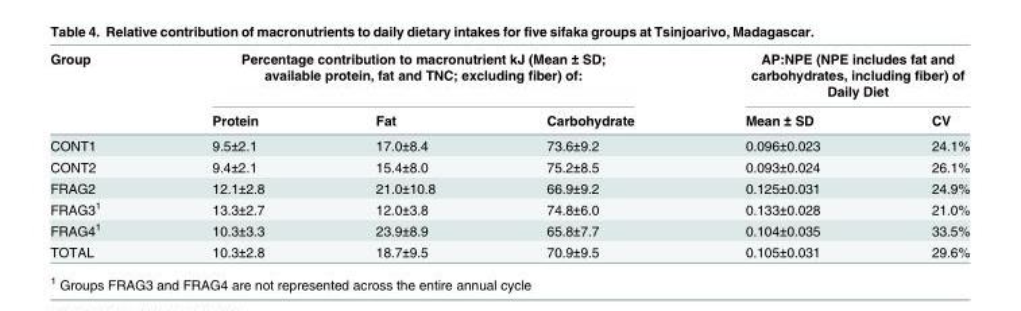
<table><thead><tr><td rowspan="2">Group</td><td colspan="3">Percentage contribution to macronutrient kJ (Mean ± SD; available protein, fat and TNC; excluding fiber) of:</td><td colspan="2">AP:NPE (NPE includes fat and carbohydrates, including fiber) of Daily Diet</td></tr><tr><td>Protein</td><td>Fat</td><td>Carbohydrate</td><td>Mean ± SD</td><td>CV</td></tr></thead><tbody><tr><td>CONT1</td><td>9.5±2.1</td><td>17.0±8.4</td><td>73.6±9.2</td><td>0.096±0.023</td><td>24.1%</td></tr><tr><td>CONT2</td><td>9.4±2.1</td><td>15.4±8.0</td><td>75.2±8.5</td><td>0.093±0.024</td><td>26.1%</td></tr><tr><td>FRAG2</td><td>12.1±2.8</td><td>21.0±10.8</td><td>66.9±9.2</td><td>0.125±0.031</td><td>24.9%</td></tr><tr><td>FRAG3<sup>1</sup></td><td>13.3±2.7</td><td>12.0±3.8</td><td>74.8±6.0</td><td>0.133±0.028</td><td>21.0%</td></tr><tr><td>FRAG4<sup>1</sup></td><td>10.3±3.3</td><td>23.9±8.9</td><td>65.8±7.7</td><td>0.104±0.035</td><td>33.5%</td></tr><tr><td>TOTAL</td><td>10.3±2.8</td><td>18.7±9.5</td><td>70.9±9.5</td><td>0.105±0.031</td><td>29.6%</td></tr></tbody></table>